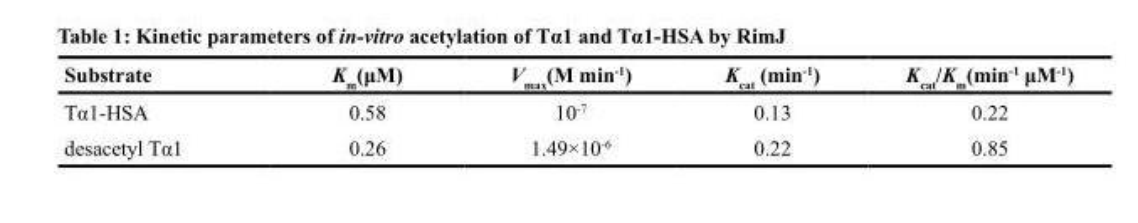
<table><thead><tr><td>Substrate</td><td>K<sub>m</sub>(μM)</td><td>V<sub>max</sub>(M min<sup>-1</sup>)</td><td>K<sub>cat</sub> (min<sup>-1</sup>)</td><td>K<sub>cat</sub>/K<sub>m</sub>(min<sup>-1</sup> μM<sup>-1</sup>)</td></tr></thead><tbody><tr><td>Tα1-HSA</td><td>0.58</td><td>10<sup>-7</sup></td><td>0.13</td><td>0.22</td></tr><tr><td>desacetyl Tα1</td><td>0.26</td><td>1.49×10<sup>-6</sup></td><td>0.22</td><td>0.85</td></tr></tbody></table>